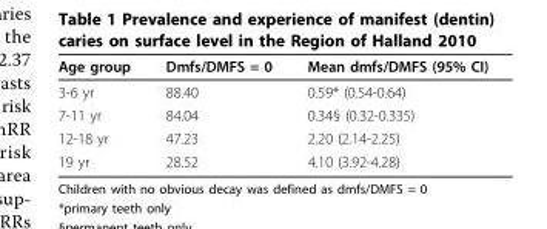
<table><thead><tr><td>Age group</td><td>Dmfs/DMFS = 0</td><td>Mean dmfs/DMFS (95% CI)</td></tr></thead><tbody><tr><td>3-6 yr</td><td>88.40</td><td>0.59* (0.54-0.64)</td></tr><tr><td>7-11 yr</td><td>84.04</td><td>0.34§ (0.32-0.335)</td></tr><tr><td>12-18 yr</td><td>47.23</td><td>2.20 (2.14-2.25)</td></tr><tr><td>19 yr</td><td>28.52</td><td>4.10 (3.92-4.28)</td></tr></tbody></table>